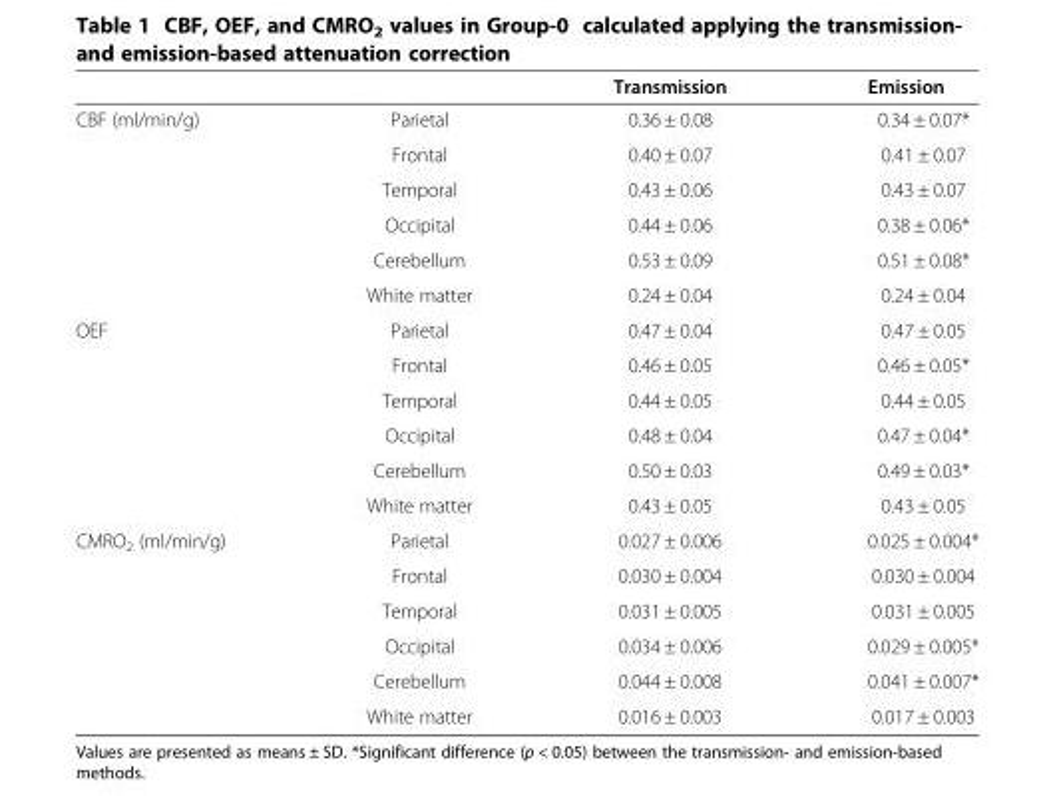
<table><thead><tr><td></td><td></td><td>Transmission</td><td>Emission</td></tr></thead><tbody><tr><td rowspan="6">CBF (ml/min/g)</td><td>Parietal</td><td>0.36 ± 0.08</td><td>0.34 ± 0.07*</td></tr><tr><td>Frontal</td><td>0.40 ± 0.07</td><td>0.41 ± 0.07</td></tr><tr><td>Temporal</td><td>0.43 ± 0.06</td><td>0.43 ± 0.07</td></tr><tr><td>Occipital</td><td>0.44 ± 0.06</td><td>0.38 ± 0.06*</td></tr><tr><td>Cerebellum</td><td>0.53 ± 0.09</td><td>0.51 ± 0.08*</td></tr><tr><td>White matter</td><td>0.24 ± 0.04</td><td>0.24 ± 0.04</td></tr><tr><td rowspan="6">OEF</td><td>Parietal</td><td>0.47 ± 0.04</td><td>0.47 ± 0.05</td></tr><tr><td>Frontal</td><td>0.46 ± 0.05</td><td>0.46 ± 0.05*</td></tr><tr><td>Temporal</td><td>0.44 ± 0.05</td><td>0.44 ± 0.05</td></tr><tr><td>Occipital</td><td>0.48 ± 0.04</td><td>0.47 ± 0.04*</td></tr><tr><td>Cerebellum</td><td>0.50 ± 0.03</td><td>0.49 ± 0.03*</td></tr><tr><td>White matter</td><td>0.43 ± 0.05</td><td>0.43 ± 0.05</td></tr><tr><td rowspan="6">CMRO<sub>2</sub> (ml/min/g)</td><td>Parietal</td><td>0.027 ± 0.006</td><td>0.025 ± 0.004*</td></tr><tr><td>Frontal</td><td>0.030 ± 0.004</td><td>0.030 ± 0.004</td></tr><tr><td>Temporal</td><td>0.031 ± 0.005</td><td>0.031 ± 0.005</td></tr><tr><td>Occipital</td><td>0.034 ± 0.006</td><td>0.029 ± 0.005*</td></tr><tr><td>Cerebellum</td><td>0.044 ± 0.008</td><td>0.041 ± 0.007*</td></tr><tr><td>White matter</td><td>0.016 ± 0.003</td><td>0.017 ± 0.003</td></tr></tbody></table>